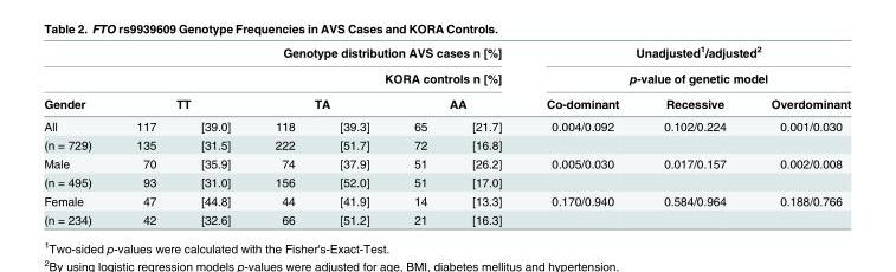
<table><thead><tr><td rowspan="2" colspan="7">Genotype distribution AVS cases n [%] KORA controls n [%]</td><td rowspan="2" colspan="3">Unadjusted<sup>1</sup>/adjusted<sup>2</sup> p-value of genetic model</td></tr><tr></tr><tr><td rowspan="2">Gender All</td><td colspan="2">TT</td><td colspan="2">TA</td><td colspan="2">AA</td><td rowspan="2">Co-dominant 0.004/0.092</td><td rowspan="2">Recessive 0.102/0.224</td><td rowspan="2">Overdominant 0.001/0.030</td></tr><tr><td>117</td><td>[39.0]</td><td>118</td><td>[39.3]</td><td>65</td><td>[21.7]</td></tr></thead><tbody><tr><td>(n = 729)</td><td>135</td><td>[31.5]</td><td>222</td><td>[51.7]</td><td>72</td><td>[16.8]</td><td></td><td></td><td></td></tr><tr><td>Male</td><td>70</td><td>[35.9]</td><td>74</td><td>[37.9]</td><td>51</td><td>[26.2]</td><td>0.005/0.030</td><td>0.017/0.157</td><td>0.002/0.008</td></tr><tr><td>(n = 495)</td><td>93</td><td>[31.0]</td><td>156</td><td>[52.0]</td><td>51</td><td>[17.0]</td><td></td><td></td><td></td></tr><tr><td>Female</td><td>47</td><td>[44.8]</td><td>44</td><td>[41.9]</td><td>14</td><td>[13.3]</td><td>0.170/0.940</td><td>0.584/0.964</td><td>0.188/0.766</td></tr><tr><td>(n = 234)</td><td>42</td><td>[32.6]</td><td>66</td><td>[51.2]</td><td>21</td><td>[16.3]</td><td></td><td></td><td></td></tr></tbody></table>